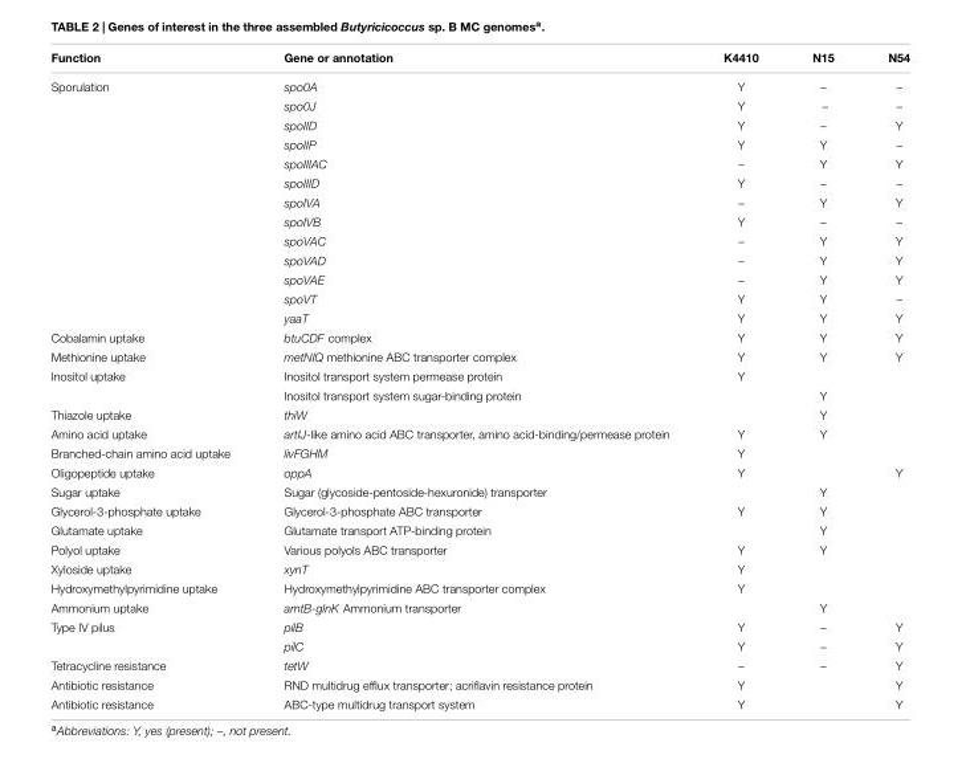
<table><thead><tr><td>Function</td><td>Gene or annotation</td><td>K4410</td><td>N15</td><td>N54</td></tr></thead><tbody><tr><td rowspan="13">Sporulation</td><td>spo0A</td><td>Y</td><td>–</td><td>–</td></tr><tr><td>spo0J</td><td>Y</td><td>–</td><td>–</td></tr><tr><td>spoIID</td><td>Y</td><td>–</td><td>Y</td></tr><tr><td>spoIIP</td><td>Y</td><td>Y</td><td>–</td></tr><tr><td>spoIIIAC</td><td>–</td><td>Y</td><td>Y</td></tr><tr><td>spoIIID</td><td>Y</td><td>–</td><td>–</td></tr><tr><td>spoIVA</td><td>–</td><td>Y</td><td>Y</td></tr><tr><td>spoIVB</td><td>Y</td><td>–</td><td>–</td></tr><tr><td>spoVAC</td><td>–</td><td>Y</td><td>Y</td></tr><tr><td>spoVAD</td><td>–</td><td>Y</td><td>Y</td></tr><tr><td>spoVAE</td><td>–</td><td>Y</td><td>Y</td></tr><tr><td>spoVT</td><td>Y</td><td>Y</td><td>–</td></tr><tr><td>yaaT</td><td>Y</td><td>Y</td><td>Y</td></tr><tr><td>Cobalamin uptake</td><td>btuCDF complex</td><td>Y</td><td>Y</td><td>Y</td></tr><tr><td>Methionine uptake</td><td>metNIQ methionine ABC transporter complex</td><td>Y</td><td>Y</td><td>Y</td></tr><tr><td rowspan="2">Inositol uptake</td><td>Inositol transport system permease protein</td><td>Y</td><td></td><td></td></tr><tr><td>Inositol transport system sugar-binding protein</td><td></td><td>Y</td><td></td></tr><tr><td>Thiazole uptake</td><td>thiW</td><td></td><td>Y</td><td></td></tr><tr><td>Amino acid uptake</td><td>artIJ-like amino acid ABC transporter, amino acid-binding/permease protein</td><td>Y</td><td>Y</td><td></td></tr><tr><td>Branched-chain amino acid uptake</td><td>livFGHM</td><td>Y</td><td></td><td></td></tr><tr><td>Oligopeptide uptake</td><td>oppA</td><td>Y</td><td></td><td>Y</td></tr><tr><td>Sugar uptake</td><td>Sugar (glycoside-pentoside-hexuronide) transporter</td><td></td><td>Y</td><td></td></tr><tr><td>Glycerol-3-phosphate uptake</td><td>Glycerol-3-phosphate ABC transporter</td><td>Y</td><td>Y</td><td></td></tr><tr><td>Glutamate uptake</td><td>Glutamate transport ATP-binding protein</td><td></td><td>Y</td><td></td></tr><tr><td>Polyol uptake</td><td>Various polyols ABC transporter</td><td>Y</td><td>Y</td><td></td></tr><tr><td>Xyloside uptake</td><td>xynT</td><td>Y</td><td></td><td></td></tr><tr><td>Hydroxymethylpyrimidine uptake</td><td>Hydroxymethylpyrimidine ABC transporter complex</td><td>Y</td><td></td><td></td></tr><tr><td>Ammonium uptake</td><td>amtB-glnK Ammonium transporter</td><td></td><td>Y</td><td></td></tr><tr><td rowspan="2">Type IV pilus</td><td>pilB</td><td>Y</td><td>–</td><td>Y</td></tr><tr><td>pilC</td><td>Y</td><td>–</td><td>Y</td></tr><tr><td>Tetracycline resistance</td><td>tetW</td><td>–</td><td>–</td><td>Y</td></tr><tr><td>Antibiotic resistance</td><td>RND multidrug efflux transporter; acriflavin resistance protein</td><td>Y</td><td></td><td>Y</td></tr><tr><td>Antibiotic resistance</td><td>ABC-type multidrug transport system</td><td>Y</td><td></td><td>Y</td></tr></tbody></table>